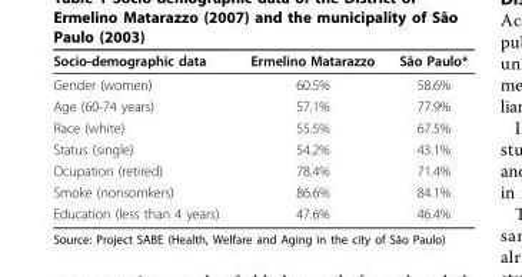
<table><thead><tr><td>Socio-demographic data</td><td>Ermelino Matarazzo</td><td>São Paulo*</td></tr></thead><tbody><tr><td>Gender (women)</td><td>60.5%</td><td>58.6%</td></tr><tr><td>Age (60-74 years)</td><td>57.1%</td><td>77.9%</td></tr><tr><td>Race (white)</td><td>55.5%</td><td>67.5%</td></tr><tr><td>Status (single)</td><td>54.2%</td><td>43.1%</td></tr><tr><td>Ocupation (retired)</td><td>78.4%</td><td>71.4%</td></tr><tr><td>Smoke (nonsomkers)</td><td>86.6%</td><td>84.1%</td></tr><tr><td>Education (less than 4 years)</td><td>47.6%</td><td>46.4%</td></tr></tbody></table>